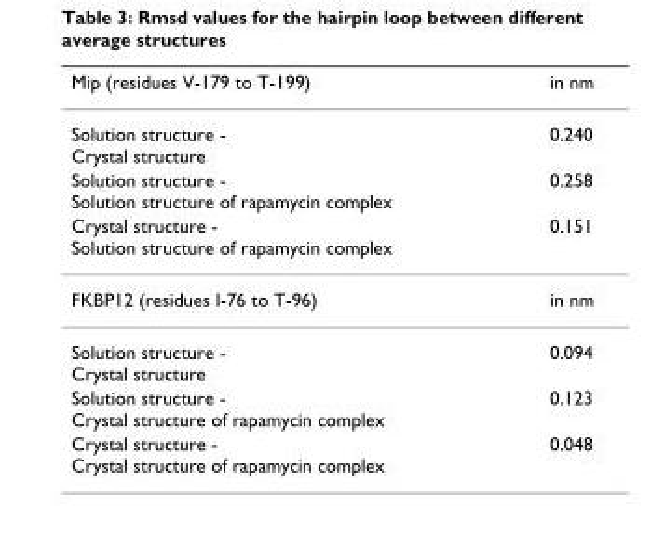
<table><thead><tr><td>Mip (residues V-179 to T-199)</td><td>in nm</td></tr></thead><tbody><tr><td>Solution structure - Crystal structure</td><td>0.240</td></tr><tr><td>Solution structure - Solution structure of rapamycin complex</td><td>0.258</td></tr><tr><td>Crystal structure - Solution structure of rapamycin complex</td><td>0.151</td></tr><tr><td>FKBP12 (residues I-76 to T-96)</td><td>in nm</td></tr><tr><td>Solution structure - Crystal structure</td><td>0.094</td></tr><tr><td>Solution structure - Crystal structure of rapamycin complex</td><td>0.123</td></tr><tr><td>Crystal structure - Crystal structure of rapamycin complex</td><td>0.048</td></tr></tbody></table>